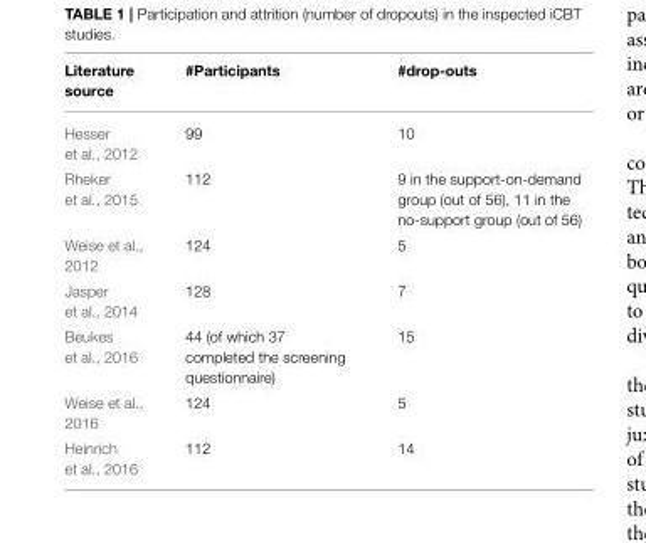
<table><thead><tr><td>Literature source</td><td>#Participants</td><td>#drop-outs</td></tr></thead><tbody><tr><td>Hesser et al., 2012</td><td>99</td><td>10</td></tr><tr><td>Rheker et al., 2015</td><td>112</td><td>9 in the support-on-demand group (out of 56), 11 in the no-support group (out of 56)</td></tr><tr><td>Weise et al., 2012</td><td>124</td><td>5</td></tr><tr><td>Jasper et al., 2014</td><td>128</td><td>7</td></tr><tr><td>Beukes et al., 2016</td><td>44 (of which 37 completed the screening questionnaire)</td><td>15</td></tr><tr><td>Weise et al., 2016</td><td>124</td><td>5</td></tr><tr><td>Heinrich et al., 2016</td><td>112</td><td>14</td></tr></tbody></table>